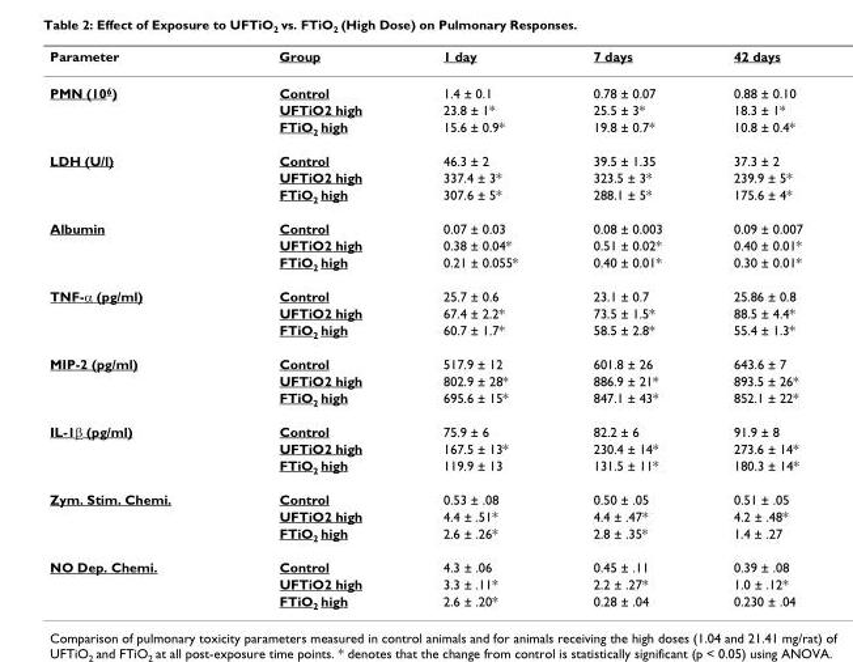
<table><thead><tr><td>Parameter</td><td>Group</td><td>1 day</td><td>7 days</td><td>42 days</td></tr></thead><tbody><tr><td rowspan="3">PMN (10<sup>6</sup>)</td><td>Control</td><td>1.4 ± 0.1</td><td>0.78 ± 0.07</td><td>0.88 ± 0.10</td></tr><tr><td>UFTiO2 high</td><td>23.8 ± 1*</td><td>25.5 ± 3*</td><td>18.3 ± 1*</td></tr><tr><td>FTiO<sub>2</sub> high</td><td>15.6 ± 0.9*</td><td>19.8 ± 0.7*</td><td>10.8 ± 0.4*</td></tr><tr><td rowspan="3">LDH (U/l)</td><td>Control</td><td>46.3 ± 2</td><td>39.5 ± 1.35</td><td>37.3 ± 2</td></tr><tr><td>UFTiO2 high</td><td>337.4 ± 3*</td><td>323.5 ± 3*</td><td>239.9 ± 5*</td></tr><tr><td>FTiO<sub>2</sub> high</td><td>307.6 ± 5*</td><td>288.1 ± 5*</td><td>175.6 ± 4*</td></tr><tr><td rowspan="3">Albumin</td><td>Control</td><td>0.07 ± 0.03</td><td>0.08 ± 0.003</td><td>0.09 ± 0.007</td></tr><tr><td>UFTiO2 high</td><td>0.38 ± 0.04*</td><td>0.51 ± 0.02*</td><td>0.40 ± 0.01*</td></tr><tr><td>FTiO<sub>2</sub> high</td><td>0.21 ± 0.055*</td><td>0.40 ± 0.01*</td><td>0.30 ± 0.01*</td></tr><tr><td rowspan="3">TNF-α (pg/ml)</td><td>Control</td><td>25.7 ± 0.6</td><td>23.1 ± 0.7</td><td>25.86 ± 0.8</td></tr><tr><td>UFTiO2 high</td><td>67.4 ± 2.2*</td><td>73.5 ± 1.5*</td><td>88.5 ± 4.4*</td></tr><tr><td>FTiO<sub>2</sub> high</td><td>60.7 ± 1.7*</td><td>58.5 ± 2.8*</td><td>55.4 ± 1.3*</td></tr><tr><td rowspan="3">MIP-2 (pg/ml)</td><td>Control</td><td>517.9 ± 12</td><td>601.8 ± 26</td><td>643.6 ± 7</td></tr><tr><td>UFTiO2 high</td><td>802.9 ± 28*</td><td>886.9 ± 21*</td><td>893.5 ± 26*</td></tr><tr><td>FTiO<sub>2</sub> high</td><td>695.6 ± 15*</td><td>847.1 ± 43*</td><td>852.1 ± 22*</td></tr><tr><td rowspan="3">IL-1β (pg/ml)</td><td>Control</td><td>75.9 ± 6</td><td>82.2 ± 6</td><td>91.9 ± 8</td></tr><tr><td>UFTiO2 high</td><td>167.5 ± 13*</td><td>230.4 ± 14*</td><td>273.6 ± 14*</td></tr><tr><td>FTiO<sub>2</sub> high</td><td>119.9 ± 13</td><td>131.5 ± 11*</td><td>180.3 ± 14*</td></tr><tr><td rowspan="3">Zym. Stim. Chemi.</td><td>Control</td><td>0.53 ± .08</td><td>0.50 ± .05</td><td>0.51 ± .05</td></tr><tr><td>UFTiO2 high</td><td>4.4 ± .51*</td><td>4.4 ± .47*</td><td>4.2 ± .48*</td></tr><tr><td>FTiO<sub>2</sub> high</td><td>2.6 ± .26*</td><td>2.8 ± .35*</td><td>1.4 ± .27</td></tr><tr><td rowspan="3">NO Dep. Chemi.</td><td>Control</td><td>4.3 ± .06</td><td>0.45 ± .11</td><td>0.39 ± .08</td></tr><tr><td>UFTiO2 high</td><td>3.3 ± .11*</td><td>2.2 ± .27*</td><td>1.0 ± .12*</td></tr><tr><td>FTiO<sub>2</sub> high</td><td>2.6 ± .20*</td><td>0.28 ± .04</td><td>0.230 ± .04</td></tr></tbody></table>